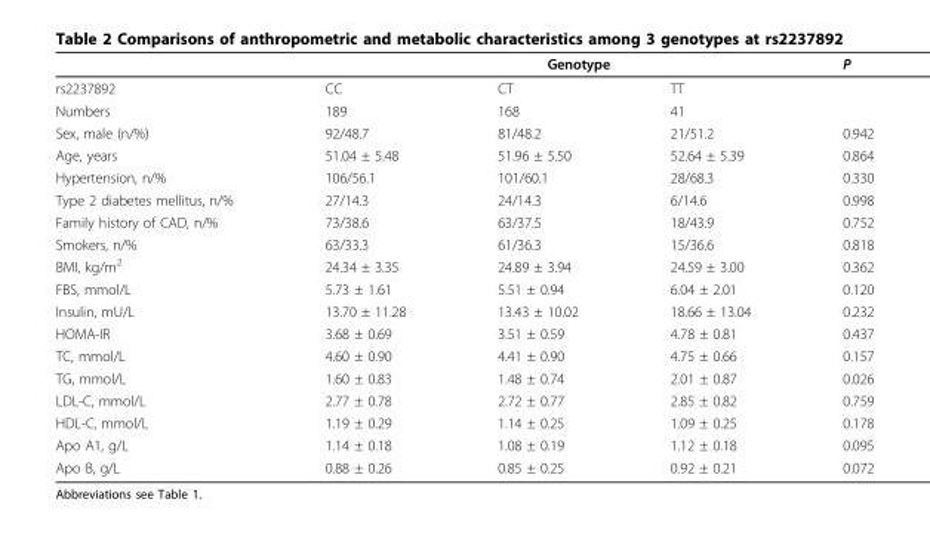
<table><thead><tr><td rowspan="2">rs2237892</td><td colspan="3">Genotype</td><td rowspan="2">P</td></tr><tr><td>CC</td><td>CT</td><td>TT</td></tr></thead><tbody><tr><td>Numbers</td><td>189</td><td>168</td><td>41</td><td></td></tr><tr><td>Sex, male (n/%)</td><td>92/48.7</td><td>81/48.2</td><td>21/51.2</td><td>0.942</td></tr><tr><td>Age, years</td><td>51.04 ± 5.48</td><td>51.96 ± 5.50</td><td>52.64 ± 5.39</td><td>0.864</td></tr><tr><td>Hypertension, n/%</td><td>106/56.1</td><td>101/60.1</td><td>28/68.3</td><td>0.330</td></tr><tr><td>Type 2 diabetes mellitus, n/%</td><td>27/14.3</td><td>24/14.3</td><td>6/14.6</td><td>0.998</td></tr><tr><td>Family history of CAD, n/%</td><td>73/38.6</td><td>63/37.5</td><td>18/43.9</td><td>0.752</td></tr><tr><td>Smokers, n/%</td><td>63/33.3</td><td>61/36.3</td><td>15/36.6</td><td>0.818</td></tr><tr><td>BMI, kg/m<sup>2</sup></td><td>24.34 ± 3.35</td><td>24.89 ± 3.94</td><td>24.59 ± 3.00</td><td>0.362</td></tr><tr><td>FBS, mmol/L</td><td>5.73 ± 1.61</td><td>5.51 ± 0.94</td><td>6.04 ± 2.01</td><td>0.120</td></tr><tr><td>Insulin, mU/L</td><td>13.70 ± 11.28</td><td>13.43 ± 10.02</td><td>18.66 ± 13.04</td><td>0.232</td></tr><tr><td>HOMA-IR</td><td>3.68 ± 0.69</td><td>3.51 ± 0.59</td><td>4.78 ± 0.81</td><td>0.437</td></tr><tr><td>TC, mmol/L</td><td>4.60 ± 0.90</td><td>4.41 ± 0.90</td><td>4.75 ± 0.66</td><td>0.157</td></tr><tr><td>TG, mmol/L</td><td>1.60 ± 0.83</td><td>1.48 ± 0.74</td><td>2.01 ± 0.87</td><td>0.026</td></tr><tr><td>LDL-C, mmol/L</td><td>2.77 ± 0.78</td><td>2.72 ± 0.77</td><td>2.85 ± 0.82</td><td>0.759</td></tr><tr><td>HDL-C, mmol/L</td><td>1.19 ± 0.29</td><td>1.14 ± 0.25</td><td>1.09 ± 0.25</td><td>0.178</td></tr><tr><td>Apo A1, g/L</td><td>1.14 ± 0.18</td><td>1.08 ± 0.19</td><td>1.12 ± 0.18</td><td>0.095</td></tr><tr><td>Apo B, g/L</td><td>0.88 ± 0.26</td><td>0.85 ± 0.25</td><td>0.92 ± 0.21</td><td>0.072</td></tr></tbody></table>